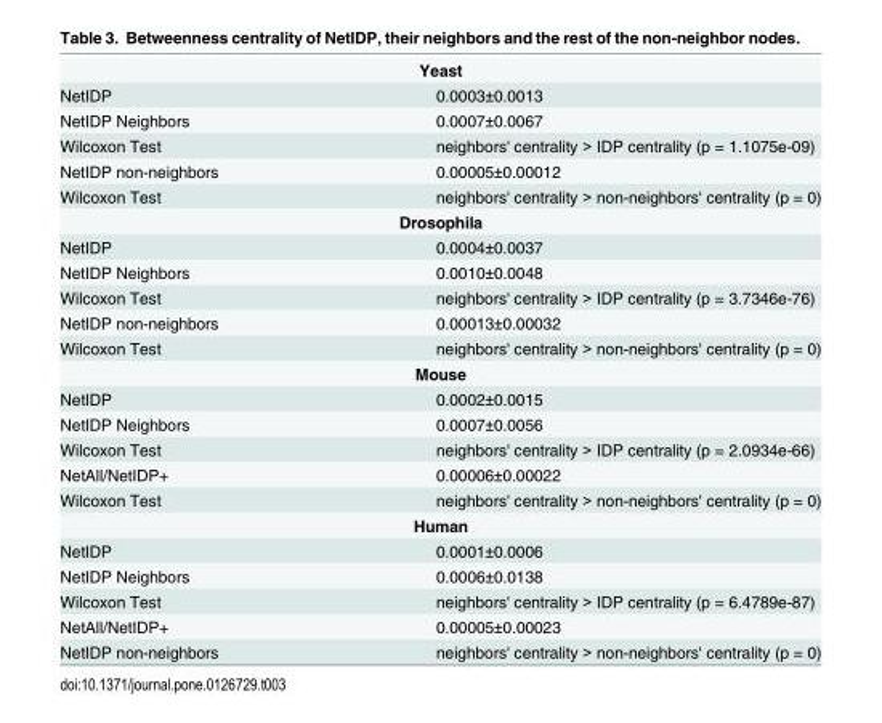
<table><tbody><tr><td colspan="2">Yeast</td></tr><tr><td>NetIDP</td><td>0.0003±0.0013</td></tr><tr><td>NetIDP Neighbors</td><td>0.0007±0.0067</td></tr><tr><td>Wilcoxon Test</td><td>neighbors&#x27; centrality &gt; IDP centrality (p = 1.1075e-09)</td></tr><tr><td>NetIDP non-neighbors</td><td>0.00005±0.00012</td></tr><tr><td>Wilcoxon Test</td><td>neighbors&#x27; centrality &gt; non-neighbors&#x27; centrality (p = 0)</td></tr><tr><td colspan="2">Drosophila</td></tr><tr><td>NetIDP</td><td>0.0004±0.0037</td></tr><tr><td>NetIDP Neighbors</td><td>0.0010±0.0048</td></tr><tr><td>Wilcoxon Test</td><td>neighbors&#x27; centrality &gt; IDP centrality (p = 3.7346e-76)</td></tr><tr><td>NetIDP non-neighbors</td><td>0.00013±0.00032</td></tr><tr><td>Wilcoxon Test</td><td>neighbors&#x27; centrality &gt; non-neighbors&#x27; centrality (p = 0)</td></tr><tr><td colspan="2">Mouse</td></tr><tr><td>NetIDP</td><td>0.0002±0.0015</td></tr><tr><td>NetIDP Neighbors</td><td>0.0007±0.0056</td></tr><tr><td>Wilcoxon Test</td><td>neighbors&#x27; centrality &gt; IDP centrality (p = 2.0934e-66)</td></tr><tr><td>NetAll/NetIDP+</td><td>0.00006±0.00022</td></tr><tr><td>Wilcoxon Test</td><td>neighbors&#x27; centrality &gt; non-neighbors&#x27; centrality (p = 0)</td></tr><tr><td colspan="2">Human</td></tr><tr><td>NetIDP</td><td>0.0001±0.0006</td></tr><tr><td>NetIDP Neighbors</td><td>0.0006±0.0138</td></tr><tr><td>Wilcoxon Test</td><td>neighbors&#x27; centrality &gt; IDP centrality (p = 6.4789e-87)</td></tr><tr><td>NetAll/NetIDP+</td><td>0.00005±0.00023</td></tr><tr><td>NetIDP non-neighbors</td><td>neighbors&#x27; centrality &gt; non-neighbors&#x27; centrality (p = 0)</td></tr></tbody></table>